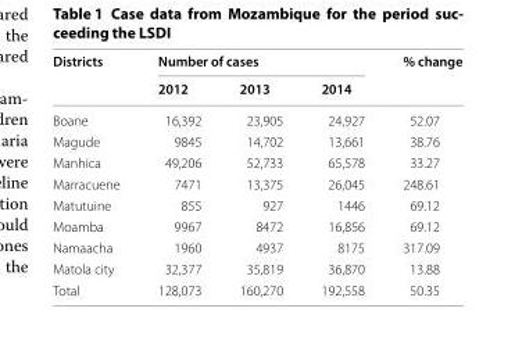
<table><thead><tr><td rowspan="2">Districts</td><td colspan="3">Number of cases</td><td rowspan="2">% change</td></tr><tr><td>2012</td><td>2013</td><td>2014</td></tr></thead><tbody><tr><td>Boane</td><td>16,392</td><td>23,905</td><td>24,927</td><td>52.07</td></tr><tr><td>Magude</td><td>9845</td><td>14,702</td><td>13,661</td><td>38.76</td></tr><tr><td>Manhica</td><td>49,206</td><td>52,733</td><td>65,578</td><td>33.27</td></tr><tr><td>Marracuene</td><td>7471</td><td>13,375</td><td>26,045</td><td>248.61</td></tr><tr><td>Matutuine</td><td>855</td><td>927</td><td>1446</td><td>69.12</td></tr><tr><td>Moamba</td><td>9967</td><td>8472</td><td>16,856</td><td>69.12</td></tr><tr><td>Namaacha</td><td>1960</td><td>4937</td><td>8175</td><td>317.09</td></tr><tr><td>Matola city</td><td>32,377</td><td>35,819</td><td>36,870</td><td>13.88</td></tr><tr><td>Total</td><td>128,073</td><td>160,270</td><td>192,558</td><td>50.35</td></tr></tbody></table>